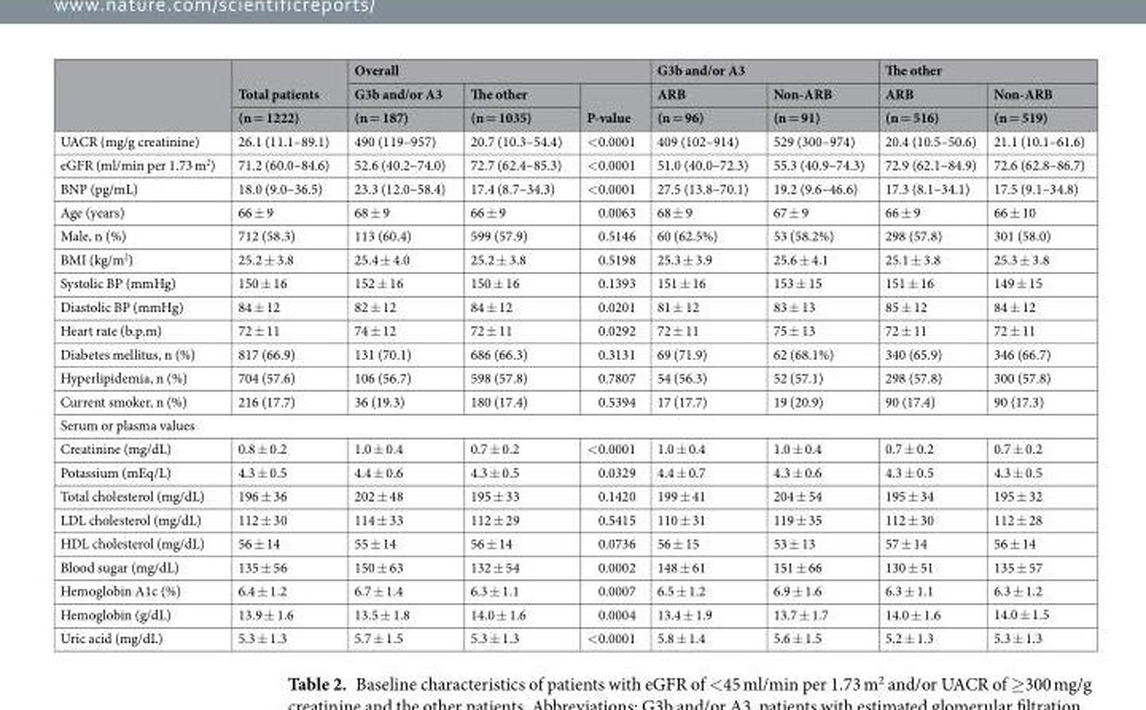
<table><thead><tr><td rowspan="3"></td><td rowspan="3">Total patients (n = 1222)</td><td colspan="3">Overall</td><td colspan="2">G3b and/or A3</td><td colspan="2">The other</td></tr><tr><td rowspan="2">G3b and/or A3 (n = 187)</td><td rowspan="2">The other (n = 1035)</td><td rowspan="2">P-value</td><td rowspan="2">ARB (n = 96)</td><td rowspan="2">Non-ARB (n = 91)</td><td rowspan="2">ARB (n = 516)</td><td rowspan="2">Non-ARB (n = 519)</td></tr><tr></tr></thead><tbody><tr><td>UACR (mg/g creatinine)</td><td>26.1 (11.1–89.1)</td><td>490 (119–957)</td><td>20.7 (10.3–54.4)</td><td>&lt;0.0001</td><td>409 (102–914)</td><td>529 (300–974)</td><td>20.4 (10.5–50.6)</td><td>21.1 (10.1–61.6)</td></tr><tr><td>eGFR (ml/min per 1.73 m<sup>2</sup>)</td><td>71.2 (60.0–84.6)</td><td>52.6 (40.2–74.0)</td><td>72.7 (62.4–85.3)</td><td>&lt;0.0001</td><td>51.0 (40.0–72.3)</td><td>55.3 (40.9–74.3)</td><td>72.9 (62.1–84.9)</td><td>72.6 (62.8–86.7)</td></tr><tr><td>BNP (pg/mL)</td><td>18.0 (9.0–36.5)</td><td>23.3 (12.0–58.4)</td><td>17.4 (8.7–34.3)</td><td>&lt;0.0001</td><td>27.5 (13.8–70.1)</td><td>19.2 (9.6–46.6)</td><td>17.3 (8.1–34.1)</td><td>17.5 (9.1–34.8)</td></tr><tr><td>Age (years)</td><td>66 ± 9</td><td>68 ± 9</td><td>66 ± 9</td><td>0.0063</td><td>68 ± 9</td><td>67 ± 9</td><td>66 ± 9</td><td>66 ± 10</td></tr><tr><td>Male, n (%)</td><td>712 (58.3)</td><td>113 (60.4)</td><td>599 (57.9)</td><td>0.5146</td><td>60 (62.5%)</td><td>53 (58.2%)</td><td>298 (57.8)</td><td>301 (58.0)</td></tr><tr><td>BMI (kg/m<sup>2</sup>)</td><td>25.2 ± 3.8</td><td>25.4 ± 4.0</td><td>25.2 ± 3.8</td><td>0.5198</td><td>25.3 ± 3.9</td><td>25.6 ± 4.1</td><td>25.1 ± 3.8</td><td>25.3 ± 3.8</td></tr><tr><td>Systolic BP (mmHg)</td><td>150 ± 16</td><td>152 ± 16</td><td>150 ± 16</td><td>0.1393</td><td>151 ± 16</td><td>153 ± 15</td><td>151 ± 16</td><td>149 ± 15</td></tr><tr><td>Diastolic BP (mmHg)</td><td>84 ± 12</td><td>82 ± 12</td><td>84 ± 12</td><td>0.0201</td><td>81 ± 12</td><td>83 ± 13</td><td>85 ± 12</td><td>84 ± 12</td></tr><tr><td>Heart rate (b.p.m)</td><td>72 ± 11</td><td>74 ± 12</td><td>72 ± 11</td><td>0.0292</td><td>72 ± 11</td><td>75 ± 13</td><td>72 ± 11</td><td>72 ± 11</td></tr><tr><td>Diabetes mellitus, n (%)</td><td>817 (66.9)</td><td>131 (70.1)</td><td>686 (66.3)</td><td>0.3131</td><td>69 (71.9)</td><td>62 (68.1%)</td><td>340 (65.9)</td><td>346 (66.7)</td></tr><tr><td>Hyperlipidemia, n (%)</td><td>704 (57.6)</td><td>106 (56.7)</td><td>598 (57.8)</td><td>0.7807</td><td>54 (56.3)</td><td>52 (57.1)</td><td>298 (57.8)</td><td>300 (57.8)</td></tr><tr><td>Current smoker, n (%)</td><td>216 (17.7)</td><td>36 (19.3)</td><td>180 (17.4)</td><td>0.5394</td><td>17 (17.7)</td><td>19 (20.9)</td><td>90 (17.4)</td><td>90 (17.3)</td></tr><tr><td colspan="9">Serum or plasma values</td></tr><tr><td>Creatinine (mg/dL)</td><td>0.8 ± 0.2</td><td>1.0 ± 0.4</td><td>0.7 ± 0.2</td><td>&lt;0.0001</td><td>1.0 ± 0.4</td><td>1.0 ± 0.4</td><td>0.7 ± 0.2</td><td>0.7 ± 0.2</td></tr><tr><td>Potassium (mEq/L)</td><td>4.3 ± 0.5</td><td>4.4 ± 0.6</td><td>4.3 ± 0.5</td><td>0.0329</td><td>4.4 ± 0.7</td><td>4.3 ± 0.6</td><td>4.3 ± 0.5</td><td>4.3 ± 0.5</td></tr><tr><td>Total cholesterol (mg/dL)</td><td>196 ± 36</td><td>202 ± 48</td><td>195 ± 33</td><td>0.1420</td><td>199 ± 41</td><td>204 ± 54</td><td>195 ± 34</td><td>195 ± 32</td></tr><tr><td>LDL cholesterol (mg/dL)</td><td>112 ± 30</td><td>114 ± 33</td><td>112 ± 29</td><td>0.5415</td><td>110 ± 31</td><td>119 ± 35</td><td>112 ± 30</td><td>112 ± 28</td></tr><tr><td>HDL cholesterol (mg/dL)</td><td>56 ± 14</td><td>55 ± 14</td><td>56 ± 14</td><td>0.0736</td><td>56 ± 15</td><td>53 ± 13</td><td>57 ± 14</td><td>56 ± 14</td></tr><tr><td>Blood sugar (mg/dL)</td><td>135 ± 56</td><td>150 ± 63</td><td>132 ± 54</td><td>0.0002</td><td>148 ± 61</td><td>151 ± 66</td><td>130 ± 51</td><td>135 ± 57</td></tr><tr><td>Hemoglobin A1c (%)</td><td>6.4 ± 1.2</td><td>6.7 ± 1.4</td><td>6.3 ± 1.1</td><td>0.0007</td><td>6.5 ± 1.2</td><td>6.9 ± 1.6</td><td>6.3 ± 1.1</td><td>6.3 ± 1.2</td></tr><tr><td>Hemoglobin (g/dL)</td><td>13.9 ± 1.6</td><td>13.5 ± 1.8</td><td>14.0 ± 1.6</td><td>0.0004</td><td>13.4 ± 1.9</td><td>13.7 ± 1.7</td><td>14.0 ± 1.6</td><td>14.0 ± 1.5</td></tr><tr><td>Uric acid (mg/dL)</td><td>5.3 ± 1.3</td><td>5.7 ± 1.5</td><td>5.3 ± 1.3</td><td>&lt;0.0001</td><td>5.8 ± 1.4</td><td>5.6 ± 1.5</td><td>5.2 ± 1.3</td><td>5.3 ± 1.3</td></tr></tbody></table>